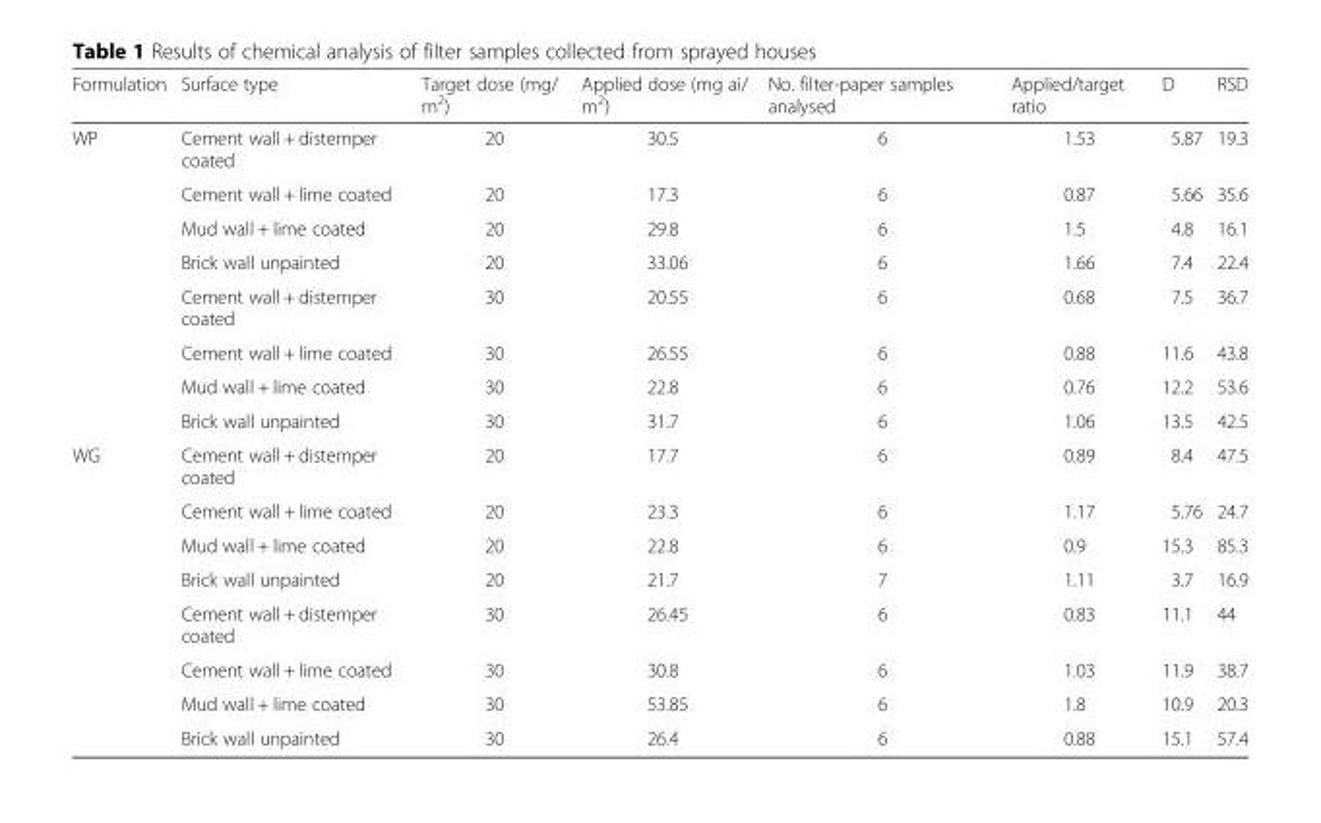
<table><thead><tr><td>Formulation</td><td>Surface type</td><td>Target dose (mg/ m<sup>2</sup>)</td><td>Applied dose (mg ai/ m<sup>2</sup>)</td><td>No. filter-paper samples analysed</td><td>Applied/target ratio</td><td>D</td><td>RSD</td></tr></thead><tbody><tr><td rowspan="8">WP</td><td>Cement wall + distemper coated</td><td>20</td><td>30.5</td><td>6</td><td>1.53</td><td>5.87</td><td>19.3</td></tr><tr><td>Cement wall + lime coated</td><td>20</td><td>17.3</td><td>6</td><td>0.87</td><td>5.66</td><td>35.6</td></tr><tr><td>Mud wall + lime coated</td><td>20</td><td>29.8</td><td>6</td><td>1.5</td><td>4.8</td><td>16.1</td></tr><tr><td>Brick wall unpainted</td><td>20</td><td>33.06</td><td>6</td><td>1.66</td><td>7.4</td><td>22.4</td></tr><tr><td>Cement wall + distemper coated</td><td>30</td><td>20.55</td><td>6</td><td>0.68</td><td>7.5</td><td>36.7</td></tr><tr><td>Cement wall + lime coated</td><td>30</td><td>26.55</td><td>6</td><td>0.88</td><td>11.6</td><td>43.8</td></tr><tr><td>Mud wall + lime coated</td><td>30</td><td>22.8</td><td>6</td><td>0.76</td><td>12.2</td><td>53.6</td></tr><tr><td>Brick wall unpainted</td><td>30</td><td>31.7</td><td>6</td><td>1.06</td><td>13.5</td><td>42.5</td></tr><tr><td rowspan="8">WG</td><td>Cement wall + distemper coated</td><td>20</td><td>17.7</td><td>6</td><td>0.89</td><td>8.4</td><td>47.5</td></tr><tr><td>Cement wall + lime coated</td><td>20</td><td>23.3</td><td>6</td><td>1.17</td><td>5.76</td><td>24.7</td></tr><tr><td>Mud wall + lime coated</td><td>20</td><td>22.8</td><td>6</td><td>0.9</td><td>15.3</td><td>85.3</td></tr><tr><td>Brick wall unpainted</td><td>20</td><td>21.7</td><td>7</td><td>1.11</td><td>3.7</td><td>16.9</td></tr><tr><td>Cement wall + distemper coated</td><td>30</td><td>26.45</td><td>6</td><td>0.83</td><td>11.1</td><td>44</td></tr><tr><td>Cement wall + lime coated</td><td>30</td><td>30.8</td><td>6</td><td>1.03</td><td>11.9</td><td>38.7</td></tr><tr><td>Mud wall + lime coated</td><td>30</td><td>53.85</td><td>6</td><td>1.8</td><td>10.9</td><td>20.3</td></tr><tr><td>Brick wall unpainted</td><td>30</td><td>26.4</td><td>6</td><td>0.88</td><td>15.1</td><td>57.4</td></tr></tbody></table>